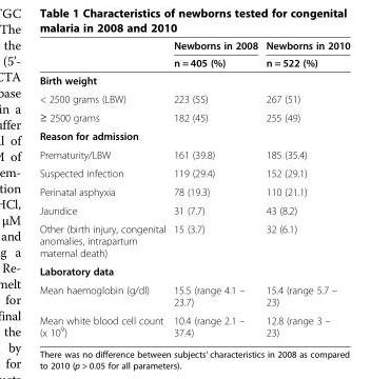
<table><thead><tr><td rowspan="2"></td><td rowspan="2">Newborns in 2008 n = 405 (%)</td><td rowspan="2">Newborns in 2010 n = 522 (%)</td></tr><tr></tr></thead><tbody><tr><td colspan="3">Birth weight</td></tr><tr><td>&lt; 2500 grams (LBW)</td><td>223 (55)</td><td>267 (51)</td></tr><tr><td>≥ 2500 grams</td><td>182 (45)</td><td>255 (49)</td></tr><tr><td colspan="3">Reason for admission</td></tr><tr><td>Prematurity/LBW</td><td>161 (39.8)</td><td>185 (35.4)</td></tr><tr><td>Suspected infection</td><td>119 (29.4)</td><td>152 (29.1)</td></tr><tr><td>Perinatal asphyxia</td><td>78 (19.3)</td><td>110 (21.1)</td></tr><tr><td>Jaundice</td><td>31 (7.7)</td><td>43 (8.2)</td></tr><tr><td>Other (birth injury, congenital anomalies, intrapartum maternal death)</td><td>15 (3.7)</td><td>32 (6.1)</td></tr><tr><td colspan="3">Laboratory data</td></tr><tr><td>Mean haemoglobin (g/dl)</td><td>15.5 (range 4.1 – 23.7)</td><td>15.4 (range 5.7 – 23)</td></tr><tr><td>Mean white blood cell count (x 10<sup>9</sup>)</td><td>10.4 (range 2.1 – 37.4)</td><td>12.8 (range 3 – 23)</td></tr></tbody></table>